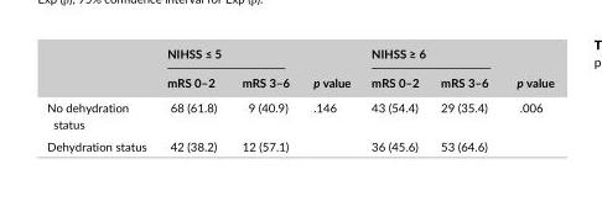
<table><thead><tr><td rowspan="2"></td><td colspan="2">NIHSS ≤ 5</td><td rowspan="2">p value</td><td colspan="2">NIHSS ≥ 6</td><td rowspan="2">p value</td></tr><tr><td>mRS 0–2</td><td>mRS 3–6</td><td>mRS 0–2</td><td>mRS 3–6</td></tr></thead><tbody><tr><td>No dehydration status</td><td>68 (61.8)</td><td>9 (40.9)</td><td rowspan="2">.146</td><td>43 (54.4)</td><td>29 (35.4)</td><td rowspan="2">.006</td></tr><tr><td>Dehydration status</td><td>42 (38.2)</td><td>12 (57.1)</td><td>36 (45.6)</td><td>53 (64.6)</td></tr></tbody></table>